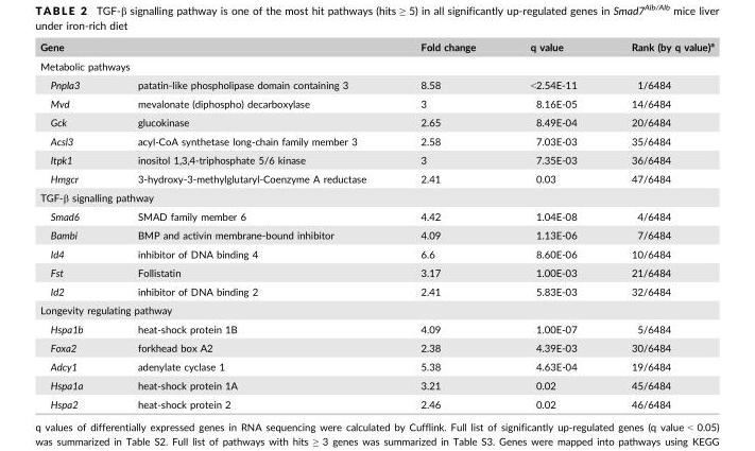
<table><thead><tr><td colspan="2">Gene</td><td>Fold change</td><td>q value</td><td>Rank (by q value)<sup>a</sup></td></tr><tr><td colspan="5">Metabolic pathways</td></tr><tr><td>Pnpla3</td><td>patatin-like phospholipase domain containing 3</td><td>8.58</td><td>&lt;2.54E-11</td><td>1/6484</td></tr></thead><tbody><tr><td>Mvd</td><td>mevalonate (diphospho) decarboxylase</td><td>3</td><td>8.16E-05</td><td>14/6484</td></tr><tr><td>Gck</td><td>glucokinase</td><td>2.65</td><td>8.49E-04</td><td>20/6484</td></tr><tr><td>Acsl3</td><td>acyl-CoA synthetase long-chain family member 3</td><td>2.58</td><td>7.03E-03</td><td>35/6484</td></tr><tr><td>Itpk1</td><td>inositol 1,3,4-triphosphate 5/6 kinase</td><td>3</td><td>7.35E-03</td><td>36/6484</td></tr><tr><td>Hmgcr</td><td>3-hydroxy-3-methylglutaryl-Coenzyme A reductase</td><td>2.41</td><td>0.03</td><td>47/6484</td></tr><tr><td colspan="5">TGF-β signalling pathway</td></tr><tr><td>Smad6</td><td>SMAD family member 6</td><td>4.42</td><td>1.04E-08</td><td>4/6484</td></tr><tr><td>Bambi</td><td>BMP and activin membrane-bound inhibitor</td><td>4.09</td><td>1.13E-06</td><td>7/6484</td></tr><tr><td>Id4</td><td>inhibitor of DNA binding 4</td><td>6.6</td><td>8.60E-06</td><td>10/6484</td></tr><tr><td>Fst</td><td>Follistatin</td><td>3.17</td><td>1.00E-03</td><td>21/6484</td></tr><tr><td>Id2</td><td>inhibitor of DNA binding 2</td><td>2.41</td><td>5.83E-03</td><td>32/6484</td></tr><tr><td colspan="5">Longevity regulating pathway</td></tr><tr><td>Hspa1b</td><td>heat-shock protein 1B</td><td>4.09</td><td>1.00E-07</td><td>5/6484</td></tr><tr><td>Foxa2</td><td>forkhead box A2</td><td>2.38</td><td>4.39E-03</td><td>30/6484</td></tr><tr><td>Adcy1</td><td>adenylate cyclase 1</td><td>5.38</td><td>4.63E-04</td><td>19/6484</td></tr><tr><td>Hspa1a</td><td>heat-shock protein 1A</td><td>3.21</td><td>0.02</td><td>45/6484</td></tr><tr><td>Hspa2</td><td>heat-shock protein 2</td><td>2.46</td><td>0.02</td><td>46/6484</td></tr></tbody></table>